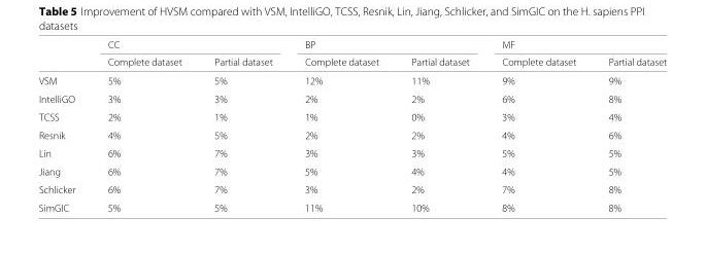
<table><thead><tr><td rowspan="2"></td><td colspan="2">CC</td><td colspan="2">BP</td><td colspan="2">MF</td></tr><tr><td>Complete dataset</td><td>Partial dataset</td><td>Complete dataset</td><td>Partial dataset</td><td>Complete dataset</td><td>Partial dataset</td></tr></thead><tbody><tr><td>VSM</td><td>5%</td><td>5%</td><td>12%</td><td>11%</td><td>9%</td><td>9%</td></tr><tr><td>IntelliGO</td><td>3%</td><td>3%</td><td>2%</td><td>2%</td><td>6%</td><td>8%</td></tr><tr><td>TCSS</td><td>2%</td><td>1%</td><td>1%</td><td>0%</td><td>3%</td><td>4%</td></tr><tr><td>Resnik</td><td>4%</td><td>5%</td><td>2%</td><td>2%</td><td>4%</td><td>6%</td></tr><tr><td>Lin</td><td>6%</td><td>7%</td><td>3%</td><td>3%</td><td>5%</td><td>5%</td></tr><tr><td>Jiang</td><td>6%</td><td>7%</td><td>5%</td><td>4%</td><td>4%</td><td>5%</td></tr><tr><td>Schlicker</td><td>6%</td><td>7%</td><td>3%</td><td>2%</td><td>7%</td><td>8%</td></tr><tr><td>SimGIC</td><td>5%</td><td>5%</td><td>11%</td><td>10%</td><td>8%</td><td>8%</td></tr></tbody></table>